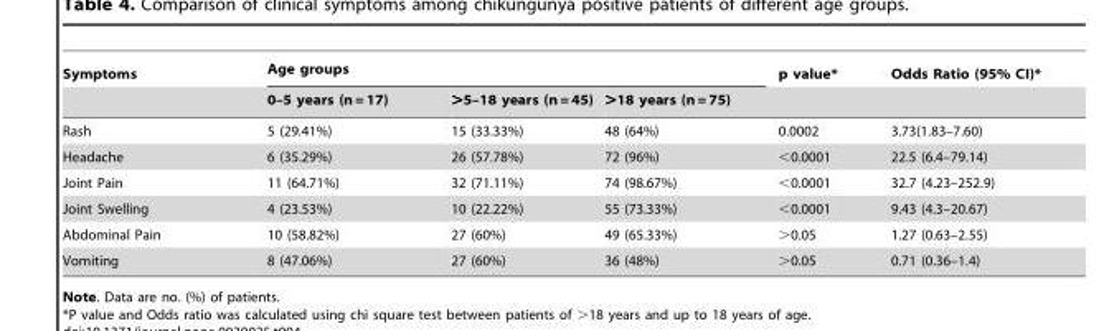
<table><thead><tr><td rowspan="2">Symptoms</td><td colspan="3">Age groups</td><td rowspan="2">p value*</td><td rowspan="2">Odds Ratio (95% CI)*</td></tr><tr><td>0–5 years (n = 17)</td><td>&gt;5–18 years (n = 45)</td><td>&gt;18 years (n = 75)</td></tr></thead><tbody><tr><td>Rash</td><td>5 (29.41%)</td><td>15 (33.33%)</td><td>48 (64%)</td><td>0.0002</td><td>3.73(1.83–7.60)</td></tr><tr><td>Headache</td><td>6 (35.29%)</td><td>26 (57.78%)</td><td>72 (96%)</td><td>&lt;0.0001</td><td>22.5 (6.4–79.14)</td></tr><tr><td>Joint Pain</td><td>11 (64.71%)</td><td>32 (71.11%)</td><td>74 (98.67%)</td><td>&lt;0.0001</td><td>32.7 (4.23–252.9)</td></tr><tr><td>Joint Swelling</td><td>4 (23.53%)</td><td>10 (22.22%)</td><td>55 (73.33%)</td><td>&lt;0.0001</td><td>9.43 (4.3–20.67)</td></tr><tr><td>Abdominal Pain</td><td>10 (58.82%)</td><td>27 (60%)</td><td>49 (65.33%)</td><td>&gt;0.05</td><td>1.27 (0.63–2.55)</td></tr><tr><td>Vomiting</td><td>8 (47.06%)</td><td>27 (60%)</td><td>36 (48%)</td><td>&gt;0.05</td><td>0.71 (0.36–1.4)</td></tr></tbody></table>